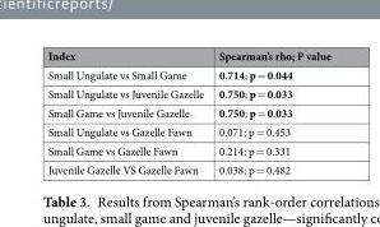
<table><thead><tr><td>Index</td><td>Spearman’s rho; P value</td></tr></thead><tbody><tr><td>Small Ungulate vs Small Game</td><td>0.714; p = 0.044</td></tr><tr><td>Small Ungulate vs Juvenile Gazelle</td><td>0.750; p = 0.033</td></tr><tr><td>Small Game vs Juvenile Gazelle</td><td>0.750; p = 0.033</td></tr><tr><td>Small Ungulate vs Gazelle Fawn</td><td>0.071; p = 0.453</td></tr><tr><td>Small Game vs Gazelle Fawn</td><td>0.214; p = 0.331</td></tr><tr><td>Juvenile Gazelle VS Gazelle Fawn</td><td>0.038; p = 0.482</td></tr></tbody></table>